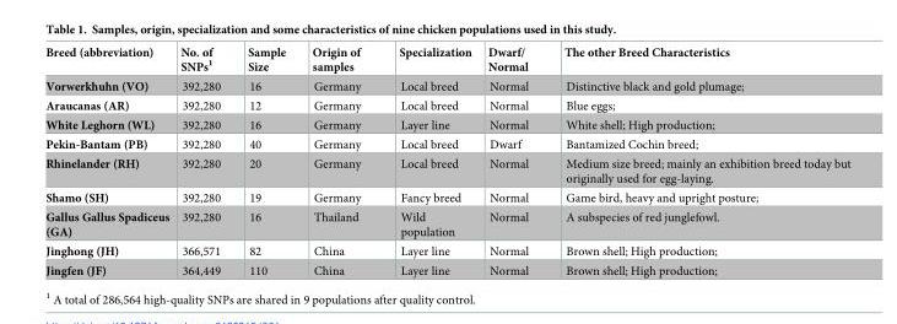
<table><thead><tr><td>Breed (abbreviation)</td><td>No. of SNPs<sup>1</sup></td><td>Sample Size</td><td>Origin of samples</td><td>Specialization</td><td>Dwarf/ Normal</td><td>The other Breed Characteristics</td></tr></thead><tbody><tr><td>Vorwerkhuhn (VO)</td><td>392,280</td><td>16</td><td>Germany</td><td>Local breed</td><td>Normal</td><td>Distinctive black and gold plumage;</td></tr><tr><td>Araucanas (AR)</td><td>392,280</td><td>12</td><td>Germany</td><td>Local breed</td><td>Normal</td><td>Blue eggs;</td></tr><tr><td>White Leghorn (WL)</td><td>392,280</td><td>16</td><td>Germany</td><td>Layer line</td><td>Normal</td><td>White shell; High production;</td></tr><tr><td>Pekin-Bantam (PB)</td><td>392,280</td><td>40</td><td>Germany</td><td>Local breed</td><td>Dwarf</td><td>Bantamized Cochin breed;</td></tr><tr><td>Rhinelander (RH)</td><td>392,280</td><td>20</td><td>Germany</td><td>Local breed</td><td>Normal</td><td>Medium size breed; mainly an exhibition breed today but originally used for egg-laying.</td></tr><tr><td>Shamo (SH)</td><td>392,280</td><td>19</td><td>Germany</td><td>Fancy breed</td><td>Normal</td><td>Game bird, heavy and upright posture;</td></tr><tr><td>Gallus Gallus Spadiceus (GA)</td><td>392,280</td><td>16</td><td>Thailand</td><td>Wild population</td><td>Normal</td><td>A subspecies of red junglefowl.</td></tr><tr><td>Jinghong (JH)</td><td>366,571</td><td>82</td><td>China</td><td>Layer line</td><td>Normal</td><td>Brown shell; High production;</td></tr><tr><td>Jingfen (JF)</td><td>364,449</td><td>110</td><td>China</td><td>Layer line</td><td>Normal</td><td>Brown shell; High production;</td></tr></tbody></table>